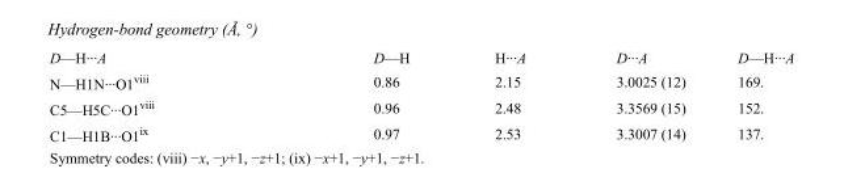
<table><tbody><tr><td>D—H···A</td><td>D—H</td><td>H···A</td><td>D···A</td><td>D—H···A</td></tr><tr><td>N—H1N···O1<sup>viii</sup></td><td>0.86</td><td>2.15</td><td>3.0025 (12)</td><td>169.</td></tr><tr><td>C5—H5C···O1<sup>viii</sup></td><td>0.96</td><td>2.48</td><td>3.3569 (15)</td><td>152.</td></tr><tr><td>C1—H1B···O1<sup>ix</sup></td><td>0.97</td><td>2.53</td><td>3.3007 (14)</td><td>137.</td></tr></tbody></table>